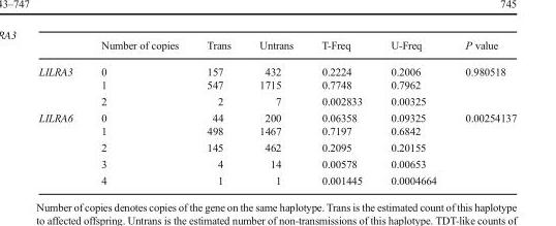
<table><thead><tr><td></td><td>Number of copies</td><td>Trans</td><td>Untrans</td><td>T-Freq</td><td>U-Freq</td><td>P value</td></tr></thead><tbody><tr><td rowspan="3">LILRA3</td><td>0</td><td>157</td><td>432</td><td>0.2224</td><td>0.2006</td><td rowspan="3">0.980518</td></tr><tr><td>1</td><td>547</td><td>1715</td><td>0.7748</td><td>0.7962</td></tr><tr><td>2</td><td>2</td><td>7</td><td>0.002833</td><td>0.00325</td></tr><tr><td rowspan="5">LILRA6</td><td>0</td><td>44</td><td>200</td><td>0.06358</td><td>0.09325</td><td rowspan="5">0.00254137</td></tr><tr><td>1</td><td>498</td><td>1467</td><td>0.7197</td><td>0.6842</td></tr><tr><td>2</td><td>145</td><td>462</td><td>0.2095</td><td>0.20155</td></tr><tr><td>3</td><td>4</td><td>14</td><td>0.00578</td><td>0.00653</td></tr><tr><td>4</td><td>1</td><td>1</td><td>0.001445</td><td>0.0004664</td></tr></tbody></table>